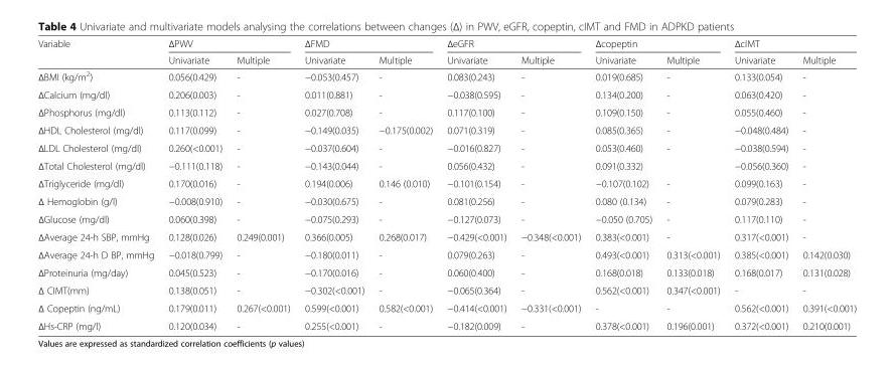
<table><thead><tr><td rowspan="2">Variable</td><td colspan="2">ΔPWV</td><td colspan="2">ΔFMD</td><td colspan="2">ΔeGFR</td><td colspan="2">Δcopeptin</td><td colspan="2">ΔcIMT</td></tr><tr><td>Univariate</td><td>Multiple</td><td>Univariate</td><td>Multiple</td><td>Univariate</td><td>Multiple</td><td>Univariate</td><td>Multiple</td><td>Univariate</td><td>Multiple</td></tr></thead><tbody><tr><td>ΔBMI (kg/m<sup>2</sup>)</td><td>0.056(0.429)</td><td>-</td><td>−0.053(0.457)</td><td>-</td><td>0.083(0.243)</td><td>-</td><td>0.019(0.685)</td><td>-</td><td>0.133(0.054)</td><td>-</td></tr><tr><td>ΔCalcium (mg/dl)</td><td>0.206(0.003)</td><td>-</td><td>0.011(0.881)</td><td>-</td><td>−0.038(0.595)</td><td>-</td><td>0.134(0.200)</td><td>-</td><td>0.063(0.420)</td><td>-</td></tr><tr><td>ΔPhosphorus (mg/dl)</td><td>0.113(0.112)</td><td>-</td><td>0.027(0.708)</td><td>-</td><td>0.117(0.100)</td><td>-</td><td>0.109(0.150)</td><td>-</td><td>0.055(0.460)</td><td>-</td></tr><tr><td>ΔHDL Cholesterol (mg/dl)</td><td>0.117(0.099)</td><td>-</td><td>−0.149(0.035)</td><td>−0.175(0.002)</td><td>0.071(0.319)</td><td>-</td><td>0.085(0.365)</td><td>-</td><td>−0.048(0.484)</td><td>-</td></tr><tr><td>ΔLDL Cholesterol (mg/dl)</td><td>0.260(&lt;0.001)</td><td>-</td><td>−0.037(0.604)</td><td>-</td><td>−0.016(0.827)</td><td>-</td><td>0.053(0.460)</td><td>-</td><td>−0.038(0.594)</td><td>-</td></tr><tr><td>ΔTotal Cholesterol (mg/dl)</td><td>−0.111(0.118)</td><td>-</td><td>−0.143(0.044)</td><td>-</td><td>0.056(0.432)</td><td>-</td><td>0.091(0.332)</td><td></td><td>−0.056(0.360)</td><td>-</td></tr><tr><td>ΔTriglyceride (mg/dl)</td><td>0.170(0.016)</td><td>-</td><td>0.194(0.006)</td><td>0.146 (0.010)</td><td>−0.101(0.154)</td><td>-</td><td>−0.107(0.102)</td><td>-</td><td>0.099(0.163)</td><td>-</td></tr><tr><td>Δ Hemoglobin (g/l)</td><td>−0.008(0.910)</td><td>-</td><td>−0.030(0.675)</td><td>-</td><td>0.081(0.256)</td><td>-</td><td>0.080 (0.134)</td><td>-</td><td>0.079(0.283)</td><td>-</td></tr><tr><td>ΔGlucose (mg/dl)</td><td>0.060(0.398)</td><td>-</td><td>−0.075(0.293)</td><td>-</td><td>−0.127(0.073)</td><td>-</td><td>−0.050 (0.705)</td><td>-</td><td>0.117(0.110)</td><td>-</td></tr><tr><td>ΔAverage 24-h SBP, mmHg</td><td>0.128(0.026)</td><td>0.249(0.001)</td><td>0.366(0.005)</td><td>0.268(0.017)</td><td>−0.429(&lt;0.001)</td><td>−0.348(&lt;0.001)</td><td>0.383(&lt;0.001)</td><td>-</td><td>0.317(&lt;0.001)</td><td>-</td></tr><tr><td>ΔAverage 24-h D BP, mmHg</td><td>−0.018(0.799)</td><td>-</td><td>−0.180(0.011)</td><td>-</td><td>0.079(0.263)</td><td>-</td><td>0.493(&lt;0.001)</td><td>0.313(&lt;0.001)</td><td>0.385(&lt;0.001)</td><td>0.142(0.030)</td></tr><tr><td>ΔProteinuria (mg/day)</td><td>0.045(0.523)</td><td>-</td><td>−0.170(0.016)</td><td>-</td><td>0.060(0.400)</td><td>-</td><td>0.168(0.018)</td><td>0.133(0.018)</td><td>0.168(0.017)</td><td>0.131(0.028)</td></tr><tr><td>Δ CIMT(mm)</td><td>0.138(0.051)</td><td>-</td><td>−0.302(&lt;0.001)</td><td>-</td><td>−0.065(0.364)</td><td>-</td><td>0.562(&lt;0.001)</td><td>0.347(&lt;0.001)</td><td>-</td><td>-</td></tr><tr><td>Δ Copeptin (ng/mL)</td><td>0.179(0.011)</td><td>0.267(&lt;0.001)</td><td>0.599(&lt;0.001)</td><td>0.582(&lt;0.001)</td><td>−0.414(&lt;0.001)</td><td>−0.331(&lt;0.001)</td><td>-</td><td>-</td><td>0.562(&lt;0.001)</td><td>0.391(&lt;0.001)</td></tr><tr><td>ΔHs-CRP (mg/l)</td><td>0.120(0.034)</td><td>-</td><td>0.255(&lt;0.001)</td><td>-</td><td>−0.182(0.009)</td><td>-</td><td>0.378(&lt;0.001)</td><td>0.196(0.001)</td><td>0.372(&lt;0.001)</td><td>0.210(0.001)</td></tr></tbody></table>